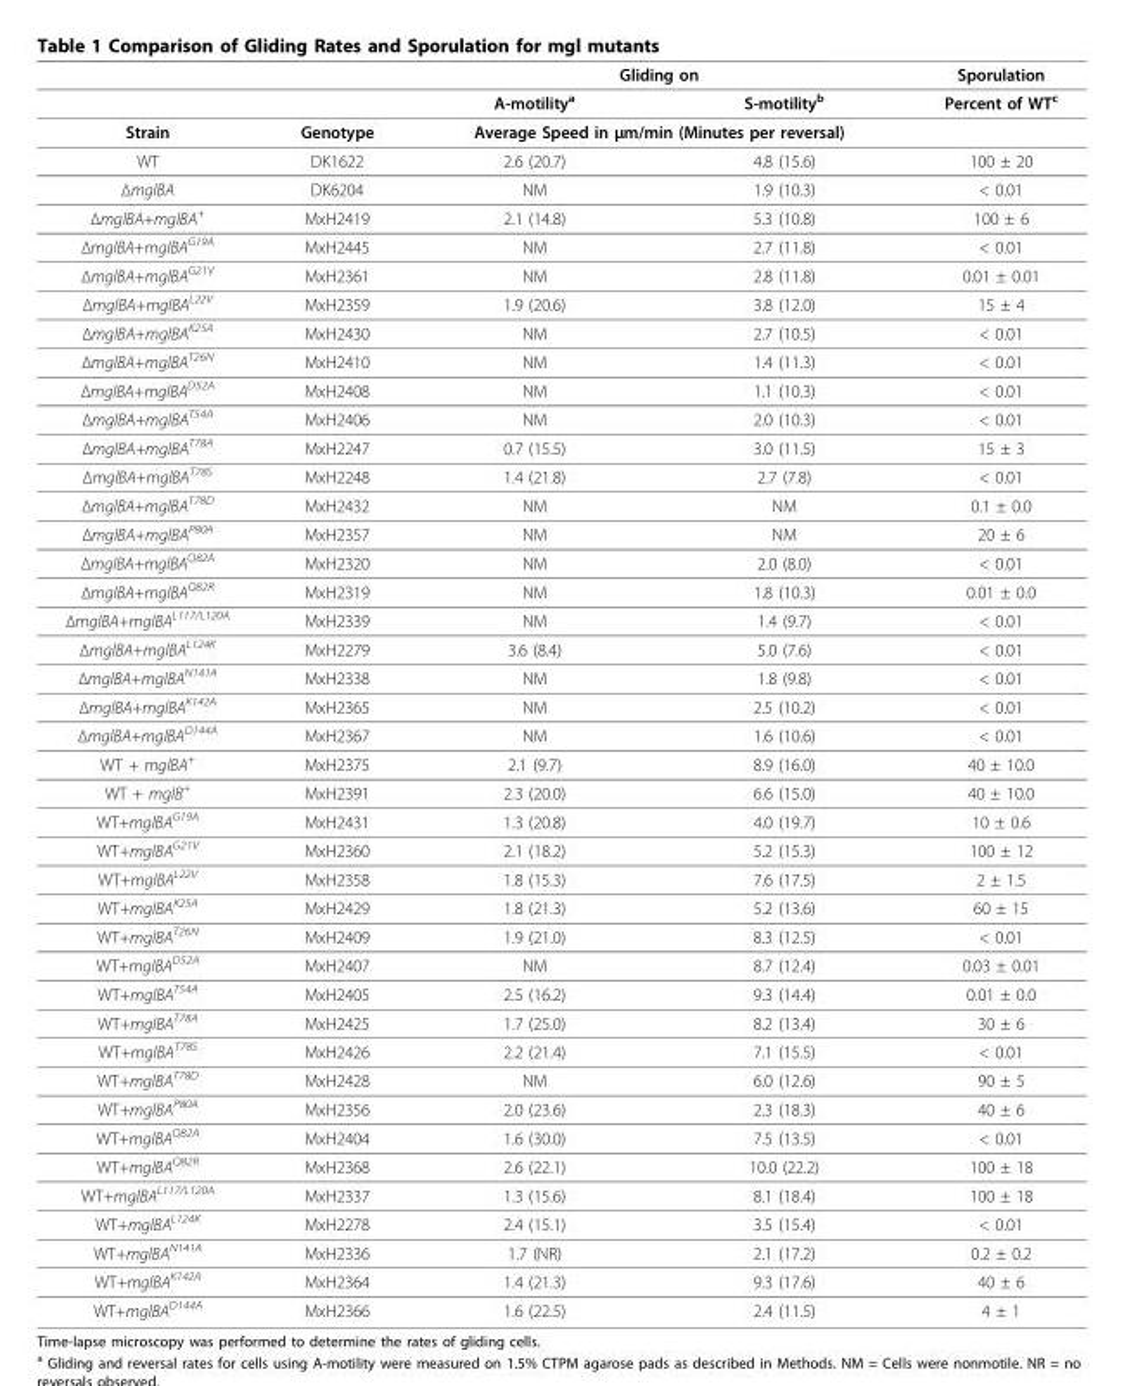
<table><thead><tr><td rowspan="2"></td><td rowspan="2"></td><td colspan="2">Gliding on</td><td rowspan="2">Sporulation Percent of WTc</td></tr><tr><td>A-motilitya</td><td>S-motilityb</td></tr></thead><tbody><tr><td>Strain</td><td>Genotype</td><td colspan="2">Average Speed in μm/min (Minutes per reversal)</td><td></td></tr><tr><td>WT</td><td>DK1622</td><td>2.6 (20.7)</td><td>4.8 (15.6)</td><td>100 ± 20</td></tr><tr><td>ΔmglBA</td><td>DK6204</td><td>NM</td><td>1.9 (10.3)</td><td>&lt; 0.01</td></tr><tr><td>ΔmglBA+mglBA<sup>+</sup></td><td>MxH2419</td><td>2.1 (14.8)</td><td>5.3 (10.8)</td><td>100 ± 6</td></tr><tr><td>ΔmglBA+mglBA<sup>G19A</sup></td><td>MxH2445</td><td>NM</td><td>2.7 (11.8)</td><td>&lt; 0.01</td></tr><tr><td>ΔmglBA+mglBA<sup>G21V</sup></td><td>MxH2361</td><td>NM</td><td>2.8 (11.8)</td><td>0.01 ± 0.01</td></tr><tr><td>ΔmglBA+mglBA<sup>L22V</sup></td><td>MxH2359</td><td>1.9 (20.6)</td><td>3.8 (12.0)</td><td>15 ± 4</td></tr><tr><td>ΔmglBA+mglBA<sup>K25A</sup></td><td>MxH2430</td><td>NM</td><td>2.7 (10.5)</td><td>&lt; 0.01</td></tr><tr><td>ΔmglBA+mglBA<sup>T26N</sup></td><td>MxH2410</td><td>NM</td><td>1.4 (11.3)</td><td>&lt; 0.01</td></tr><tr><td>ΔmglBA+mglBA<sup>D52A</sup></td><td>MxH2408</td><td>NM</td><td>1.1 (10.3)</td><td>&lt; 0.01</td></tr><tr><td>ΔmglBA+mglBA<sup>T54A</sup></td><td>MxH2406</td><td>NM</td><td>2.0 (10.3)</td><td>&lt; 0.01</td></tr><tr><td>ΔmglBA+mglBA<sup>T78A</sup></td><td>MxH2247</td><td>0.7 (15.5)</td><td>3.0 (11.5)</td><td>15 ± 3</td></tr><tr><td>ΔmglBA+mglBA<sup>T78S</sup></td><td>MxH2248</td><td>1.4 (21.8)</td><td>2.7 (7.8)</td><td>&lt; 0.01</td></tr><tr><td>ΔmglBA+mglBA<sup>T78D</sup></td><td>MxH2432</td><td>NM</td><td>NM</td><td>0.1 ± 0.0</td></tr><tr><td>ΔmglBA+mglBA<sup>P80A</sup></td><td>MxH2357</td><td>NM</td><td>NM</td><td>20 ± 6</td></tr><tr><td>ΔmglBA+mglBA<sup>Q82A</sup></td><td>MxH2320</td><td>NM</td><td>2.0 (8.0)</td><td>&lt; 0.01</td></tr><tr><td>ΔmglBA+mglBA<sup>Q82R</sup></td><td>MxH2319</td><td>NM</td><td>1.8 (10.3)</td><td>0.01 ± 0.0</td></tr><tr><td>ΔmglBA+mglBA<sup>L117/L120A</sup></td><td>MxH2339</td><td>NM</td><td>1.4 (9.7)</td><td>&lt; 0.01</td></tr><tr><td>ΔmglBA+mglBA<sup>L124K</sup></td><td>MxH2279</td><td>3.6 (8.4)</td><td>5.0 (7.6)</td><td>&lt; 0.01</td></tr><tr><td>ΔmglBA+mglBA<sup>N141A</sup></td><td>MxH2338</td><td>NM</td><td>1.8 (9.8)</td><td>&lt; 0.01</td></tr><tr><td>ΔmglBA+mglBA<sup>K142A</sup></td><td>MxH2365</td><td>NM</td><td>2.5 (10.2)</td><td>&lt; 0.01</td></tr><tr><td>ΔmglBA+mglBA<sup>D144A</sup></td><td>MxH2367</td><td>NM</td><td>1.6 (10.6)</td><td>&lt; 0.01</td></tr><tr><td>WT + mglBA<sup>+</sup></td><td>MxH2375</td><td>2.1 (9.7)</td><td>8.9 (16.0)</td><td>40 ± 10.0</td></tr><tr><td>WT + mglB<sup>+</sup></td><td>MxH2391</td><td>2.3 (20.0)</td><td>6.6 (15.0)</td><td>40 ± 10.0</td></tr><tr><td>WT+mglBA<sup>G19A</sup></td><td>MxH2431</td><td>1.3 (20.8)</td><td>4.0 (19.7)</td><td>10 ± 0.6</td></tr><tr><td>WT+mglBA<sup>G21V</sup></td><td>MxH2360</td><td>2.1 (18.2)</td><td>5.2 (15.3)</td><td>100 ± 12</td></tr><tr><td>WT+mglBA<sup>L22V</sup></td><td>MxH2358</td><td>1.8 (15.3)</td><td>7.6 (17.5)</td><td>2 ± 1.5</td></tr><tr><td>WT+mglBA<sup>K25A</sup></td><td>MxH2429</td><td>1.8 (21.3)</td><td>5.2 (13.6)</td><td>60 ± 15</td></tr><tr><td>WT+mglBA<sup>T26N</sup></td><td>MxH2409</td><td>1.9 (21.0)</td><td>8.3 (12.5)</td><td>&lt; 0.01</td></tr><tr><td>WT+mglBA<sup>D52A</sup></td><td>MxH2407</td><td>NM</td><td>8.7 (12.4)</td><td>0.03 ± 0.01</td></tr><tr><td>WT+mglBA<sup>T54A</sup></td><td>MxH2405</td><td>2.5 (16.2)</td><td>9.3 (14.4)</td><td>0.01 ± 0.0</td></tr><tr><td>WT+mglBA<sup>T78A</sup></td><td>MxH2425</td><td>1.7 (25.0)</td><td>8.2 (13.4)</td><td>30 ± 6</td></tr><tr><td>WT+mglBA<sup>T78S</sup></td><td>MxH2426</td><td>2.2 (21.4)</td><td>7.1 (15.5)</td><td>&lt; 0.01</td></tr><tr><td>WT+mglBA<sup>T78D</sup></td><td>MxH2428</td><td>NM</td><td>6.0 (12.6)</td><td>90 ± 5</td></tr><tr><td>WT+mglBA<sup>P80A</sup></td><td>MxH2356</td><td>2.0 (23.6)</td><td>2.3 (18.3)</td><td>40 ± 6</td></tr><tr><td>WT+mglBA<sup>Q82A</sup></td><td>MxH2404</td><td>1.6 (30.0)</td><td>7.5 (13.5)</td><td>&lt; 0.01</td></tr><tr><td>WT+mglBA<sup>Q82R</sup></td><td>MxH2368</td><td>2.6 (22.1)</td><td>10.0 (22.2)</td><td>100 ± 18</td></tr><tr><td>WT+mglBA<sup>L117/L120A</sup></td><td>MxH2337</td><td>1.3 (15.6)</td><td>8.1 (18.4)</td><td>100 ± 18</td></tr><tr><td>WT+mglBA<sup>L124K</sup></td><td>MxH2278</td><td>2.4 (15.1)</td><td>3.5 (15.4)</td><td>&lt; 0.01</td></tr><tr><td>WT+mglBA<sup>N141A</sup></td><td>MxH2336</td><td>1.7 (NR)</td><td>2.1 (17.2)</td><td>0.2 ± 0.2</td></tr><tr><td>WT+mglBA<sup>K142A</sup></td><td>MxH2364</td><td>1.4 (21.3)</td><td>9.3 (17.6)</td><td>40 ± 6</td></tr><tr><td>WT+mglBA<sup>D144A</sup></td><td>MxH2366</td><td>1.6 (22.5)</td><td>2.4 (11.5)</td><td>4 ± 1</td></tr></tbody></table>